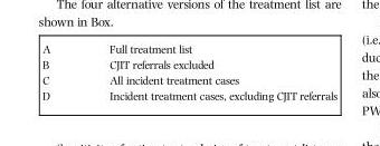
<table><tbody><tr><td>A</td><td>Full treatment list</td></tr><tr><td>B</td><td>CJIT referrals excluded</td></tr><tr><td>C</td><td>All incident treatment cases</td></tr><tr><td>D</td><td>Incident treatment cases, excluding CJIT referrals</td></tr></tbody></table>